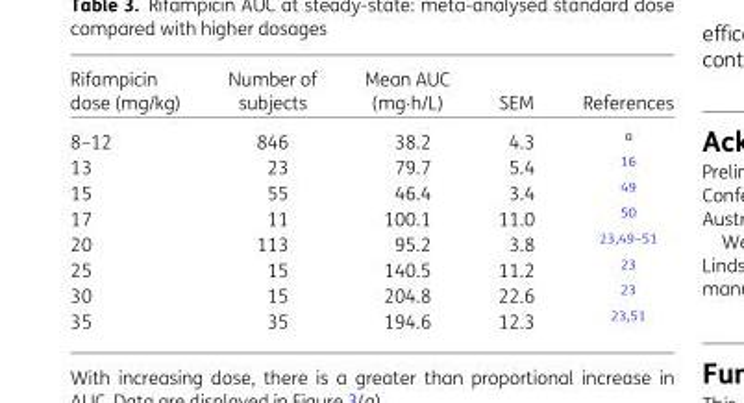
<table><thead><tr><td>Rifampicin dose (mg/kg)</td><td>Number of subjects</td><td>Mean AUC (mg·h/L)</td><td>SEM</td><td>References</td></tr></thead><tbody><tr><td>8–12</td><td>846</td><td>38.2</td><td>4.3</td><td><sup>a</sup></td></tr><tr><td>13</td><td>23</td><td>79.7</td><td>5.4</td><td><sup>16</sup></td></tr><tr><td>15</td><td>55</td><td>46.4</td><td>3.4</td><td><sup>49</sup></td></tr><tr><td>17</td><td>11</td><td>100.1</td><td>11.0</td><td><sup>50</sup></td></tr><tr><td>20</td><td>113</td><td>95.2</td><td>3.8</td><td><sup>23,49–51</sup></td></tr><tr><td>25</td><td>15</td><td>140.5</td><td>11.2</td><td><sup>23</sup></td></tr><tr><td>30</td><td>15</td><td>204.8</td><td>22.6</td><td><sup>23</sup></td></tr><tr><td>35</td><td>35</td><td>194.6</td><td>12.3</td><td><sup>23,51</sup></td></tr></tbody></table>